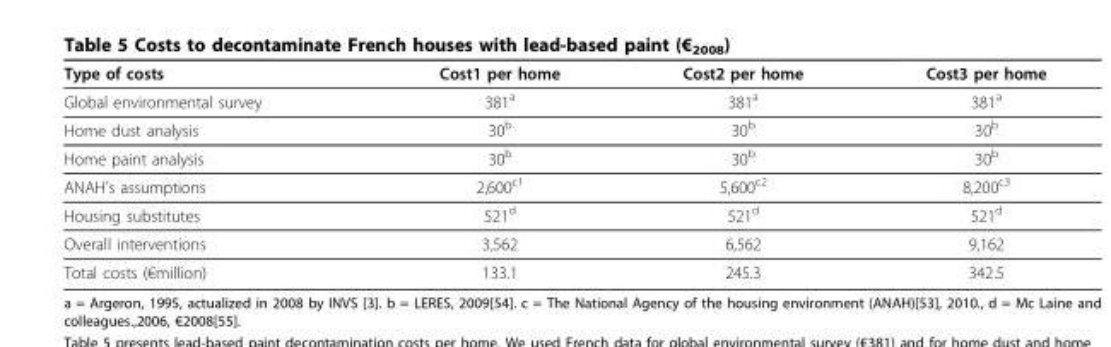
<table><thead><tr><td>Type of costs</td><td>Cost1 per home</td><td>Cost2 per home</td><td>Cost3 per home</td></tr></thead><tbody><tr><td>Global environmental survey</td><td>381<sup>a</sup></td><td>381<sup>a</sup></td><td>381<sup>a</sup></td></tr><tr><td>Home dust analysis</td><td>30<sup>b</sup></td><td>30<sup>b</sup></td><td>30<sup>b</sup></td></tr><tr><td>Home paint analysis</td><td>30<sup>b</sup></td><td>30<sup>b</sup></td><td>30<sup>b</sup></td></tr><tr><td>ANAH’s assumptions</td><td>2,600<sup>c1</sup></td><td>5,600<sup>c2</sup></td><td>8,200<sup>c3</sup></td></tr><tr><td>Housing substitutes</td><td>521<sup>d</sup></td><td>521<sup>d</sup></td><td>521<sup>d</sup></td></tr><tr><td>Overall interventions</td><td>3,562</td><td>6,562</td><td>9,162</td></tr><tr><td>Total costs (€million)</td><td>133.1</td><td>245.3</td><td>342.5</td></tr></tbody></table>